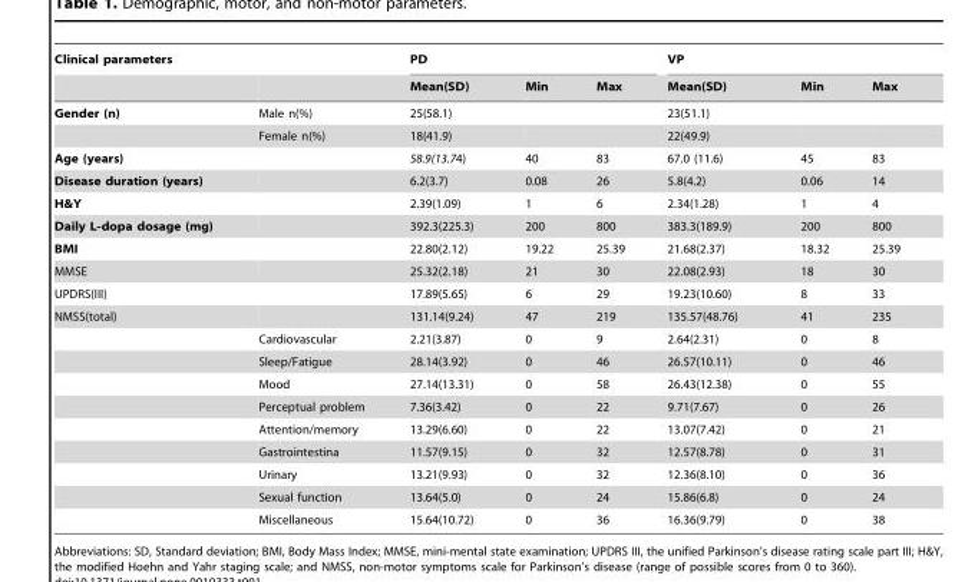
<table><thead><tr><td colspan="2">Clinical parameters</td><td colspan="3">PD</td><td colspan="3">VP</td></tr><tr><td></td><td></td><td>Mean(SD)</td><td>Min</td><td>Max</td><td>Mean(SD)</td><td>Min</td><td>Max</td></tr></thead><tbody><tr><td rowspan="2">Gender (n)</td><td>Male n(%)</td><td>25(58.1)</td><td></td><td></td><td>23(51.1)</td><td></td><td></td></tr><tr><td>Female n(%)</td><td>18(41.9)</td><td></td><td></td><td>22(49.9)</td><td></td><td></td></tr><tr><td>Age (years)</td><td></td><td>58.9(13.74)</td><td>40</td><td>83</td><td>67.0 (11.6)</td><td>45</td><td>83</td></tr><tr><td>Disease duration (years)</td><td></td><td>6.2(3.7)</td><td>0.08</td><td>26</td><td>5.8(4.2)</td><td>0.06</td><td>14</td></tr><tr><td>H&amp;Y</td><td></td><td>2.39(1.09)</td><td>1</td><td>6</td><td>2.34(1.28)</td><td>1</td><td>4</td></tr><tr><td>Daily L-dopa dosage (mg)</td><td></td><td>392.3(225.3)</td><td>200</td><td>800</td><td>383.3(189.9)</td><td>200</td><td>800</td></tr><tr><td>BMI</td><td></td><td>22.80(2.12)</td><td>19.22</td><td>25.39</td><td>21.68(2.37)</td><td>18.32</td><td>25.39</td></tr><tr><td>MMSE</td><td></td><td>25.32(2.18)</td><td>21</td><td>30</td><td>22.08(2.93)</td><td>18</td><td>30</td></tr><tr><td>UPDRS(III)</td><td></td><td>17.89(5.65)</td><td>6</td><td>29</td><td>19.23(10.60)</td><td>8</td><td>33</td></tr><tr><td rowspan="10">NMSS(total)</td><td></td><td>131.14(9.24)</td><td>47</td><td>219</td><td>135.57(48.76)</td><td>41</td><td>235</td></tr><tr><td>Cardiovascular</td><td>2.21(3.87)</td><td>0</td><td>9</td><td>2.64(2.31)</td><td>0</td><td>8</td></tr><tr><td>Sleep/Fatigue</td><td>28.14(3.92)</td><td>0</td><td>46</td><td>26.57(10.11)</td><td>0</td><td>46</td></tr><tr><td>Mood</td><td>27.14(13.31)</td><td>0</td><td>58</td><td>26.43(12.38)</td><td>0</td><td>55</td></tr><tr><td>Perceptual problem</td><td>7.36(3.42)</td><td>0</td><td>22</td><td>9.71(7.67)</td><td>0</td><td>26</td></tr><tr><td>Attention/memory</td><td>13.29(6.60)</td><td>0</td><td>22</td><td>13.07(7.42)</td><td>0</td><td>21</td></tr><tr><td>Gastrointestina</td><td>11.57(9.15)</td><td>0</td><td>32</td><td>12.57(8.78)</td><td>0</td><td>31</td></tr><tr><td>Urinary</td><td>13.21(9.93)</td><td>0</td><td>32</td><td>12.36(8.10)</td><td>0</td><td>36</td></tr><tr><td>Sexual function</td><td>13.64(5.0)</td><td>0</td><td>24</td><td>15.86(6.8)</td><td>0</td><td>24</td></tr><tr><td>Miscellaneous</td><td>15.64(10.72)</td><td>0</td><td>36</td><td>16.36(9.79)</td><td>0</td><td>38</td></tr></tbody></table>